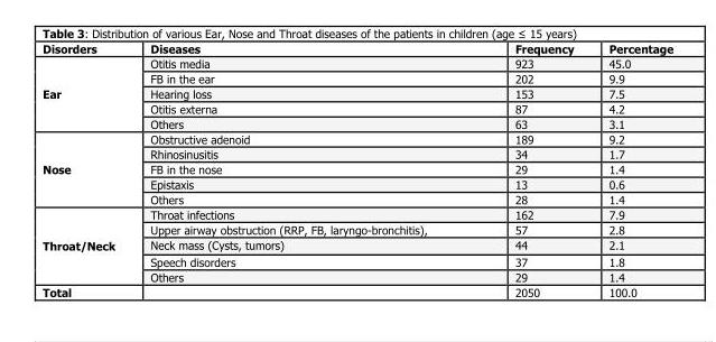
<table><thead><tr><td>Disorders</td><td>Diseases</td><td>Frequency</td><td>Percentage</td></tr></thead><tbody><tr><td rowspan="5">Ear</td><td>Otitis media</td><td>923</td><td>45.0</td></tr><tr><td>FB in the ear</td><td>202</td><td>9.9</td></tr><tr><td>Hearing loss</td><td>153</td><td>7.5</td></tr><tr><td>Otitis externa</td><td>87</td><td>4.2</td></tr><tr><td>Others</td><td>63</td><td>3.1</td></tr><tr><td rowspan="5">Nose</td><td>Obstructive adenoid</td><td>189</td><td>9.2</td></tr><tr><td>Rhinosinusitis</td><td>34</td><td>1.7</td></tr><tr><td>FB in the nose</td><td>29</td><td>1.4</td></tr><tr><td>Epistaxis</td><td>13</td><td>0.6</td></tr><tr><td>Others</td><td>28</td><td>1.4</td></tr><tr><td rowspan="5">Throat/Neck</td><td>Throat infections</td><td>162</td><td>7.9</td></tr><tr><td>Upper airway obstruction (RRP, FB, laryngo-bronchitis),</td><td>57</td><td>2.8</td></tr><tr><td>Neck mass (Cysts, tumors)</td><td>44</td><td>2.1</td></tr><tr><td>Speech disorders</td><td>37</td><td>1.8</td></tr><tr><td>Others</td><td>29</td><td>1.4</td></tr><tr><td>Total</td><td></td><td>2050</td><td>100.0</td></tr></tbody></table>